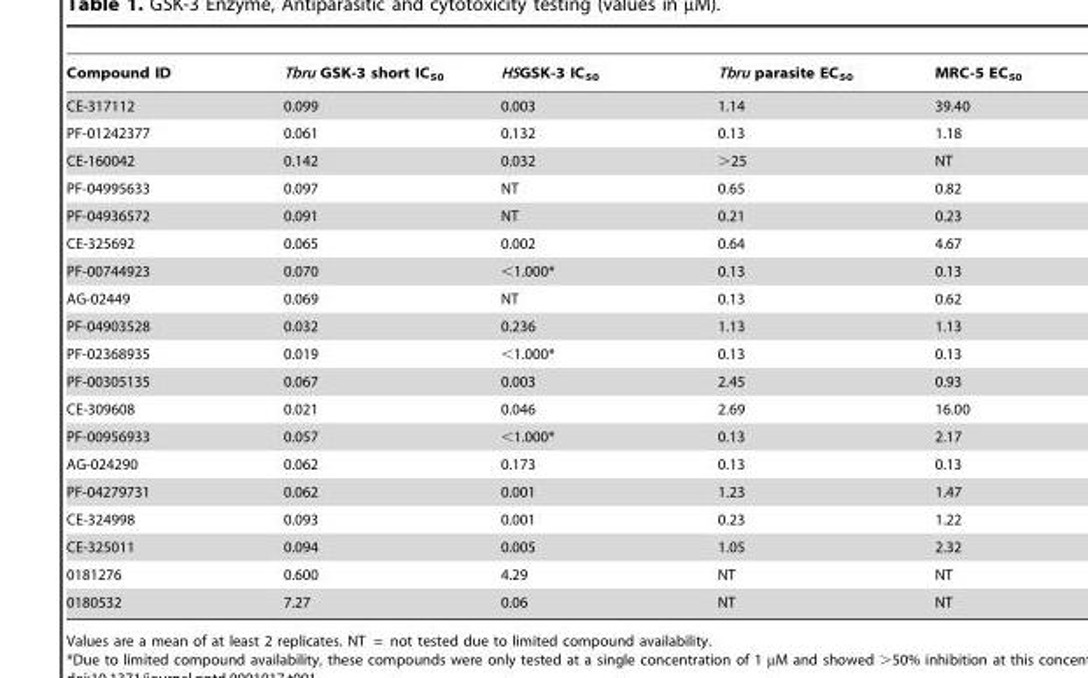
<table><thead><tr><td>Compound ID</td><td>Tbru GSK-3 short IC<sub>50</sub></td><td>HSGSK-3 IC<sub>50</sub></td><td>Tbru parasite EC<sub>50</sub></td><td>MRC-5 EC<sub>50</sub></td></tr></thead><tbody><tr><td>CE-317112</td><td>0.099</td><td>0.003</td><td>1.14</td><td>39.40</td></tr><tr><td>PF-01242377</td><td>0.061</td><td>0.132</td><td>0.13</td><td>1.18</td></tr><tr><td>CE-160042</td><td>0.142</td><td>0.032</td><td>&gt;25</td><td>NT</td></tr><tr><td>PF-04995633</td><td>0.097</td><td>NT</td><td>0.65</td><td>0.82</td></tr><tr><td>PF-04936572</td><td>0.091</td><td>NT</td><td>0.21</td><td>0.23</td></tr><tr><td>CE-325692</td><td>0.065</td><td>0.002</td><td>0.64</td><td>4.67</td></tr><tr><td>PF-00744923</td><td>0.070</td><td>&lt;1.000*</td><td>0.13</td><td>0.13</td></tr><tr><td>AG-02449</td><td>0.069</td><td>NT</td><td>0.13</td><td>0.62</td></tr><tr><td>PF-04903528</td><td>0.032</td><td>0.236</td><td>1.13</td><td>1.13</td></tr><tr><td>PF-02368935</td><td>0.019</td><td>&lt;1.000*</td><td>0.13</td><td>0.13</td></tr><tr><td>PF-00305135</td><td>0.067</td><td>0.003</td><td>2.45</td><td>0.93</td></tr><tr><td>CE-309608</td><td>0.021</td><td>0.046</td><td>2.69</td><td>16.00</td></tr><tr><td>PF-00956933</td><td>0.057</td><td>&lt;1.000*</td><td>0.13</td><td>2.17</td></tr><tr><td>AG-024290</td><td>0.062</td><td>0.173</td><td>0.13</td><td>0.13</td></tr><tr><td>PF-04279731</td><td>0.062</td><td>0.001</td><td>1.23</td><td>1.47</td></tr><tr><td>CE-324998</td><td>0.093</td><td>0.001</td><td>0.23</td><td>1.22</td></tr><tr><td>CE-325011</td><td>0.094</td><td>0.005</td><td>1.05</td><td>2.32</td></tr><tr><td>0181276</td><td>0.600</td><td>4.29</td><td>NT</td><td>NT</td></tr><tr><td>0180532</td><td>7.27</td><td>0.06</td><td>NT</td><td>NT</td></tr></tbody></table>